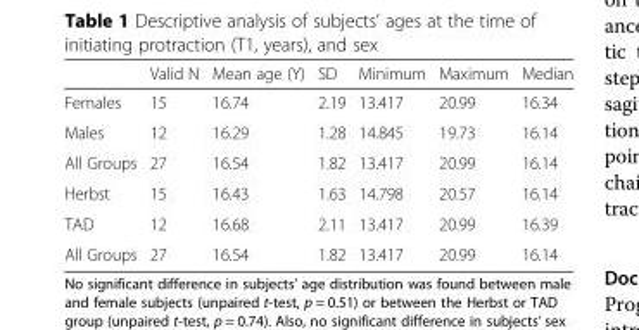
<table><thead><tr><td></td><td>Valid N</td><td>Mean age (Y)</td><td>SD</td><td>Minimum</td><td>Maximum</td><td>Median</td></tr></thead><tbody><tr><td>Females</td><td>15</td><td>16.74</td><td>2.19</td><td>13.417</td><td>20.99</td><td>16.34</td></tr><tr><td>Males</td><td>12</td><td>16.29</td><td>1.28</td><td>14.845</td><td>19.73</td><td>16.14</td></tr><tr><td>All Groups</td><td>27</td><td>16.54</td><td>1.82</td><td>13.417</td><td>20.99</td><td>16.14</td></tr><tr><td>Herbst</td><td>15</td><td>16.43</td><td>1.63</td><td>14.798</td><td>20.57</td><td>16.14</td></tr><tr><td>TAD</td><td>12</td><td>16.68</td><td>2.11</td><td>13.417</td><td>20.99</td><td>16.39</td></tr><tr><td>All Groups</td><td>27</td><td>16.54</td><td>1.82</td><td>13.417</td><td>20.99</td><td>16.14</td></tr></tbody></table>